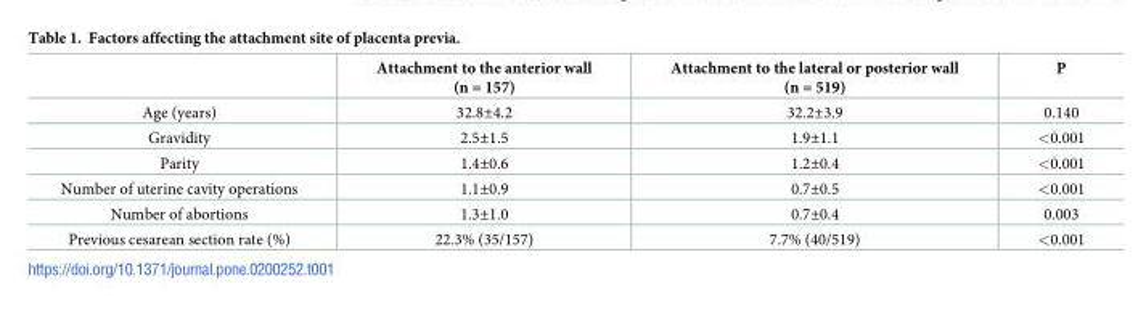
<table><thead><tr><td></td><td>Attachment to the anterior wall (n = 157)</td><td>Attachment to the lateral or posterior wall (n = 519)</td><td>P</td></tr></thead><tbody><tr><td>Age (years)</td><td>32.8±4.2</td><td>32.2±3.9</td><td>0.140</td></tr><tr><td>Gravidity</td><td>2.5±1.5</td><td>1.9±1.1</td><td>&lt;0.001</td></tr><tr><td>Parity</td><td>1.4±0.6</td><td>1.2±0.4</td><td>&lt;0.001</td></tr><tr><td>Number of uterine cavity operations</td><td>1.1±0.9</td><td>0.7±0.5</td><td>&lt;0.001</td></tr><tr><td>Number of abortions</td><td>1.3±1.0</td><td>0.7±0.4</td><td>0.003</td></tr><tr><td>Previous cesarean section rate (%)</td><td>22.3% (35/157)</td><td>7.7% (40/519)</td><td>&lt;0.001</td></tr></tbody></table>